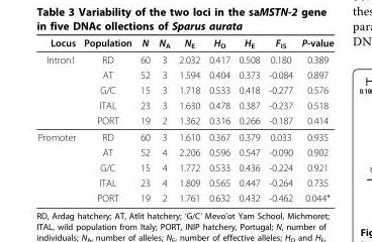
<table><thead><tr><td>Locus</td><td>Population</td><td>N</td><td>N<sub>A</sub></td><td>N<sub>E</sub></td><td>H<sub>O</sub></td><td>H<sub>E</sub></td><td>F<sub>IS</sub></td><td>P-value</td></tr></thead><tbody><tr><td rowspan="5">Intron1</td><td>RD</td><td>60</td><td>3</td><td>2.032</td><td>0.417</td><td>0.508</td><td>0.180</td><td>0.389</td></tr><tr><td>AT</td><td>52</td><td>3</td><td>1.594</td><td>0.404</td><td>0.373</td><td>-0.084</td><td>0.897</td></tr><tr><td>G/C</td><td>15</td><td>3</td><td>1.718</td><td>0.533</td><td>0.418</td><td>-0.277</td><td>0.576</td></tr><tr><td>ITAL</td><td>23</td><td>3</td><td>1.630</td><td>0.478</td><td>0.387</td><td>-0.237</td><td>0.518</td></tr><tr><td>PORT</td><td>19</td><td>2</td><td>1.362</td><td>0.316</td><td>0.266</td><td>-0.187</td><td>0.414</td></tr><tr><td rowspan="5">Promoter</td><td>RD</td><td>60</td><td>3</td><td>1.610</td><td>0.367</td><td>0.379</td><td>0.033</td><td>0.935</td></tr><tr><td>AT</td><td>52</td><td>4</td><td>2.206</td><td>0.596</td><td>0.547</td><td>-0.090</td><td>0.902</td></tr><tr><td>G/C</td><td>15</td><td>4</td><td>1.772</td><td>0.533</td><td>0.436</td><td>-0.224</td><td>0.921</td></tr><tr><td>ITAL</td><td>23</td><td>4</td><td>1.809</td><td>0.565</td><td>0.447</td><td>-0.264</td><td>0.735</td></tr><tr><td>PORT</td><td>19</td><td>2</td><td>1.761</td><td>0.632</td><td>0.432</td><td>-0.462</td><td>0.044*</td></tr></tbody></table>